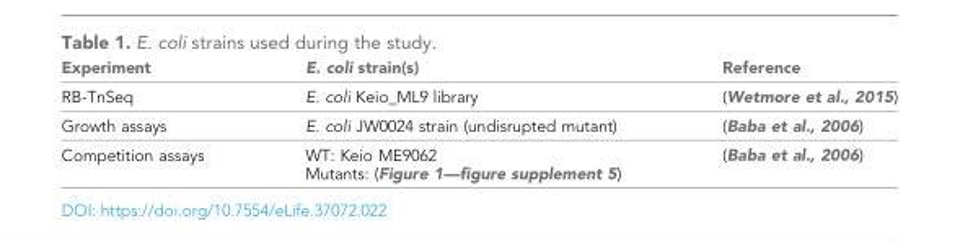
<table><thead><tr><td>Experiment</td><td>E. coli strain(s)</td><td>Reference</td></tr></thead><tbody><tr><td>RB-TnSeq</td><td>E. coli Keio_ML9 library</td><td>(Wetmore et al., 2015)</td></tr><tr><td>Growth assays</td><td>E. coli JW0024 strain (undisrupted mutant)</td><td>(Baba et al., 2006)</td></tr><tr><td>Competition assays</td><td>WT: Keio ME9062 Mutants: (Figure 1—figure supplement 5)</td><td>(Baba et al., 2006)</td></tr></tbody></table>